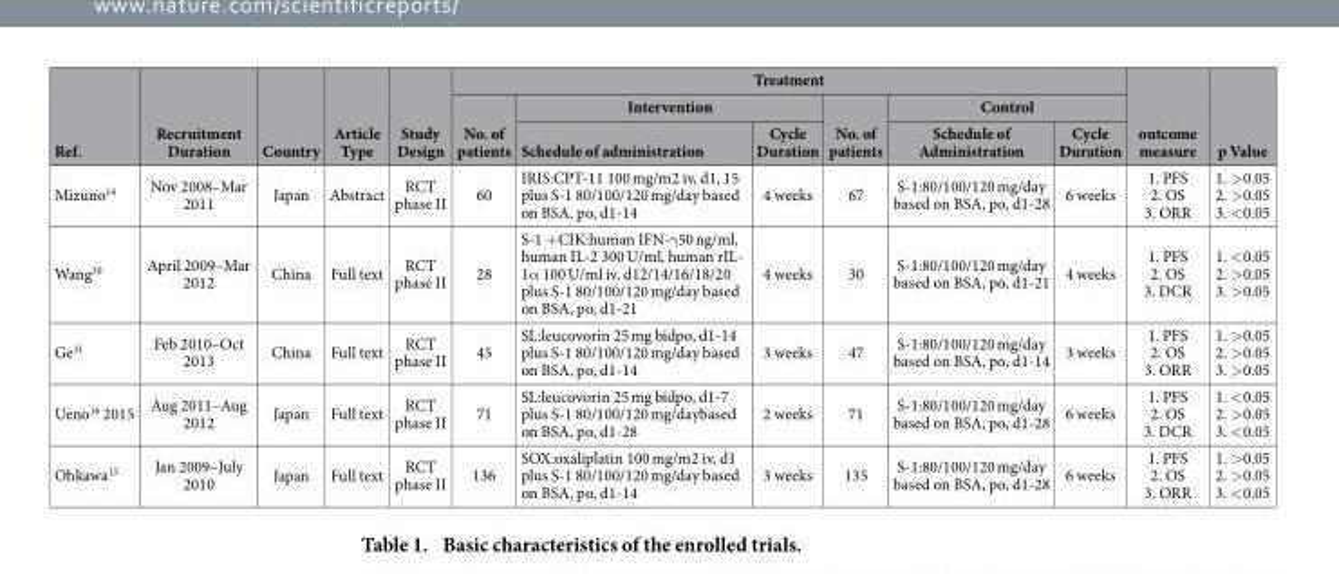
<table><thead><tr><td rowspan="3">Ref.</td><td rowspan="3">Recruitment Duration</td><td rowspan="3">Country</td><td rowspan="3">Article Type</td><td rowspan="3">Study Design</td><td colspan="6">Treatment</td><td rowspan="3">outcome measure</td><td rowspan="3">p Value</td></tr><tr><td rowspan="2">No. of patients</td><td colspan="2">Intervention</td><td rowspan="2">No. of patients</td><td colspan="2">Control</td></tr><tr><td>Schedule of administration</td><td>Cycle Duration</td><td>Schedule of Administration</td><td>Cycle Duration</td></tr></thead><tbody><tr><td>Mizuno<sup>14</sup></td><td>Nov 2008–Mar 2011</td><td>Japan</td><td>Abstract</td><td>RCT phase II</td><td>60</td><td>IRIS:CPT-11 100 mg/m2 iv, d1, 15 plus S-1 80/100/120 mg/day based on BSA, po, d1-14</td><td>4 weeks</td><td>67</td><td>S-1:80/100/120 mg/day based on BSA, po, d1-28</td><td>6 weeks</td><td>1. PFS 2. OS 3. ORR</td><td>1. &gt; 0.05 2. &gt; 0.05 3. &lt; 0.05</td></tr><tr><td>Wang<sup>30</sup></td><td>April 2009–Mar 2012</td><td>China</td><td>Full text</td><td>RCT phase II</td><td>28</td><td>S-1 + CIK:human IFN-γ 50 ng/ml, human IL-2 300 U/ml, human rIL- 1α 100 U/ml iv, d12/14/16/18/20 plus S-1 80/100/120 mg/day based on BSA, po, d1-21</td><td>4 weeks</td><td>30</td><td>S-1:80/100/120 mg/day based on BSA, po, d1-21</td><td>4 weeks</td><td>1. PFS 2. OS 3. DCR</td><td>1. &lt; 0.05 2. &gt; 0.05 3. &gt; 0.05</td></tr><tr><td>Ge<sup>31</sup></td><td>Feb 2010–Oct 2013</td><td>China</td><td>Full text</td><td>RCT phase II</td><td>45</td><td>SL:leucovorin 25 mg bidpo, d1-14 plus S-1 80/100/120 mg/day based on BSA, po, d1-14</td><td>3 weeks</td><td>47</td><td>S-1:80/100/120 mg/day based on BSA, po, d1-14</td><td>3 weeks</td><td>1. PFS 2. OS 3. ORR</td><td>1. &gt; 0.05 2. &gt; 0.05 3. &gt; 0.05</td></tr><tr><td>Ueno<sup>16</sup> 2015</td><td>Aug 2011–Aug 2012</td><td>Japan</td><td>Full text</td><td>RCT phase II</td><td>71</td><td>SL:leucovorin 25 mg bidpo, d1-7 plus S-1 80/100/120 mg/daybased on BSA, po, d1-28</td><td>2 weeks</td><td>71</td><td>S-1:80/100/120 mg/day based on BSA, po, d1-28</td><td>6 weeks</td><td>1. PFS 2. OS 3. DCR</td><td>1. &lt; 0.05 2. &gt; 0.05 3. &lt; 0.05</td></tr><tr><td>Ohkawa<sup>15</sup></td><td>Jan 2009–July 2010</td><td>Japan</td><td>Full text</td><td>RCT phase II</td><td>136</td><td>SOX:oxaliplatin 100 mg/m2 iv, d1 plus S-1 80/100/120 mg/day based on BSA, po, d1-14</td><td>3 weeks</td><td>135</td><td>S-1:80/100/120 mg/day based on BSA, po, d1-28</td><td>6 weeks</td><td>1. PFS 2. OS 3. ORR</td><td>1. &gt; 0.05 2. &gt; 0.05 3. &lt; 0.05</td></tr></tbody></table>